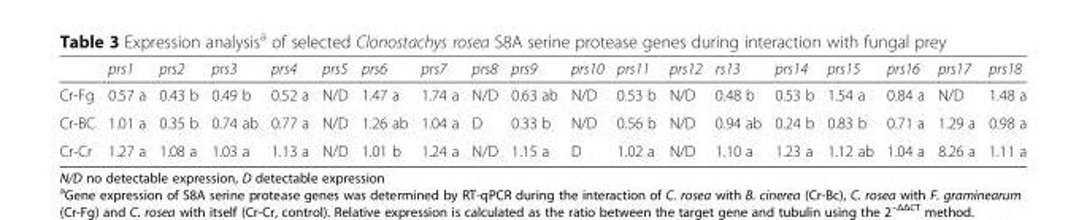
<table><thead><tr><td></td><td>prs1</td><td>prs2</td><td>prs3</td><td>prs4</td><td>prs5</td><td>prs6</td><td>prs7</td><td>prs8</td><td>prs9</td><td>prs10</td><td>prs11</td><td>prs12</td><td>rs13</td><td>prs14</td><td>prs15</td><td>prs16</td><td>prs17</td><td>prs18</td></tr></thead><tbody><tr><td>Cr-Fg</td><td>0.57 a</td><td>0.43 b</td><td>0.49 b</td><td>0.52 a</td><td>N/D</td><td>1.47 a</td><td>1.74 a</td><td>N/D</td><td>0.63 ab</td><td>N/D</td><td>0.53 b</td><td>N/D</td><td>0.48 b</td><td>0.53 b</td><td>1.54 a</td><td>0.84 a</td><td>N/D</td><td>1.48 a</td></tr><tr><td>Cr-BC</td><td>1.01 a</td><td>0.35 b</td><td>0.74 ab</td><td>0.77 a</td><td>N/D</td><td>1.26 ab</td><td>1.04 a</td><td>D</td><td>0.33 b</td><td>N/D</td><td>0.56 b</td><td>N/D</td><td>0.94 ab</td><td>0.24 b</td><td>0.83 b</td><td>0.71 a</td><td>1.29 a</td><td>0.98 a</td></tr><tr><td>Cr-Cr</td><td>1.27 a</td><td>1.08 a</td><td>1.03 a</td><td>1.13 a</td><td>N/D</td><td>1.01 b</td><td>1.24 a</td><td>N/D</td><td>1.15 a</td><td>D</td><td>1.02 a</td><td>N/D</td><td>1.10 a</td><td>1.23 a</td><td>1.12 ab</td><td>1.04 a</td><td>8.26 a</td><td>1.11 a</td></tr></tbody></table>